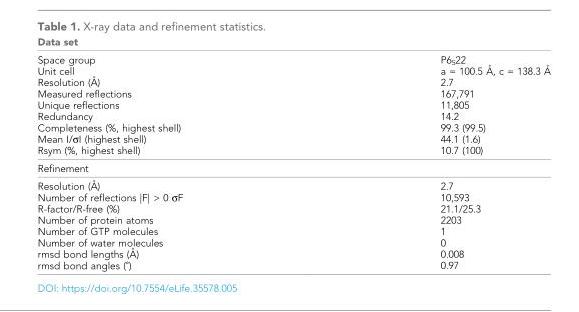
<table><thead><tr><td>Data set</td><td></td></tr></thead><tbody><tr><td>Space group Unit cell Resolution (A˚ ) Measured reflections Unique reflections Redundancy Completeness (%, highest shell) Mean I/sI (highest shell) Rsym (%, highest shell)</td><td>P6522 a = 100.5 A˚ , c = 138.3 2.7 167,791 11,805 14.2 99.3 (99.5) 44.1 (1.6) 10.7 (100)</td></tr><tr><td colspan="2">Refinement</td></tr><tr><td>Resolution (A˚ ) Number of reflections |F| &gt; 0 sF R-factor/R-free (%) Number of protein atoms Number of GTP molecules Number of water molecules rmsd bond lengths (A˚ ) rmsd bond angles (˚)</td><td>2.7 10,593 21.1/25.3 2203 1 0 0.008 0.97</td></tr></tbody></table>